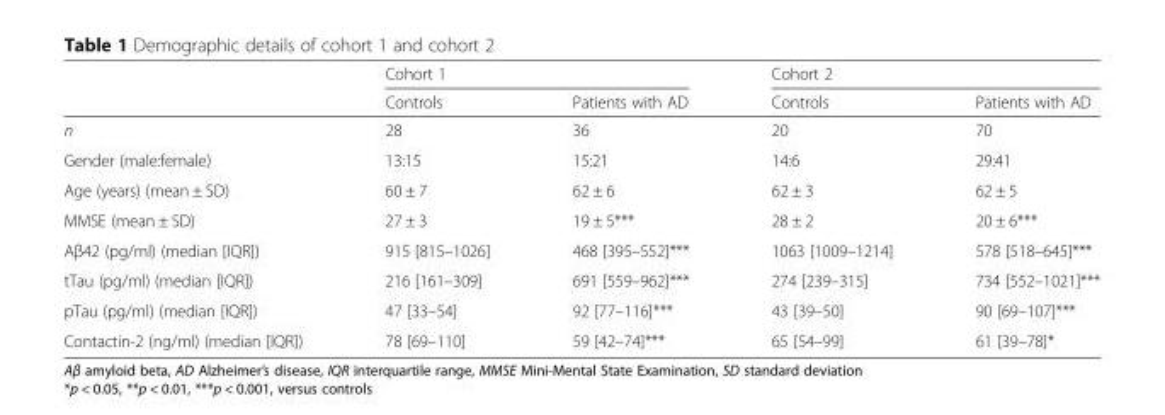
<table><thead><tr><td rowspan="2"></td><td colspan="2">Cohort 1</td><td colspan="2">Cohort 2</td></tr><tr><td>Controls</td><td>Patients with AD</td><td>Controls</td><td>Patients with AD</td></tr></thead><tbody><tr><td>n</td><td>28</td><td>36</td><td>20</td><td>70</td></tr><tr><td>Gender (male:female)</td><td>13:15</td><td>15:21</td><td>14:6</td><td>29:41</td></tr><tr><td>Age (years) (mean ± SD)</td><td>60 ± 7</td><td>62 ± 6</td><td>62 ± 3</td><td>62 ± 5</td></tr><tr><td>MMSE (mean ± SD)</td><td>27 ± 3</td><td>19 ± 5***</td><td>28 ± 2</td><td>20 ± 6***</td></tr><tr><td>Aβ42 (pg/ml) (median [IQR])</td><td>915 [815–1026]</td><td>468 [395–552]***</td><td>1063 [1009–1214]</td><td>578 [518–645]***</td></tr><tr><td>tTau (pg/ml) (median [IQR])</td><td>216 [161–309]</td><td>691 [559–962]***</td><td>274 [239–315]</td><td>734 [552–1021]***</td></tr><tr><td>pTau (pg/ml) (median [IQR])</td><td>47 [33–54]</td><td>92 [77–116]***</td><td>43 [39–50]</td><td>90 [69–107]***</td></tr><tr><td>Contactin-2 (ng/ml) (median [IQR])</td><td>78 [69–110]</td><td>59 [42–74]***</td><td>65 [54–99]</td><td>61 [39–78]*</td></tr></tbody></table>